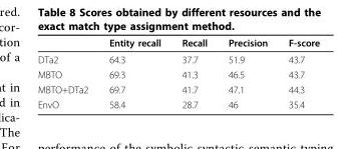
<table><thead><tr><td></td><td>Entity recall</td><td>Recall</td><td>Precision</td><td>F-score</td></tr></thead><tbody><tr><td>DTa2</td><td>64.3</td><td>37.7</td><td>51.9</td><td>43.7</td></tr><tr><td>MBTO</td><td>69.3</td><td>41.3</td><td>46.5</td><td>43.7</td></tr><tr><td>MBTO+DTa2</td><td>69.7</td><td>41.7</td><td>47.1</td><td>44.3</td></tr><tr><td>EnvO</td><td>58.4</td><td>28.7</td><td>46</td><td>35.4</td></tr></tbody></table>